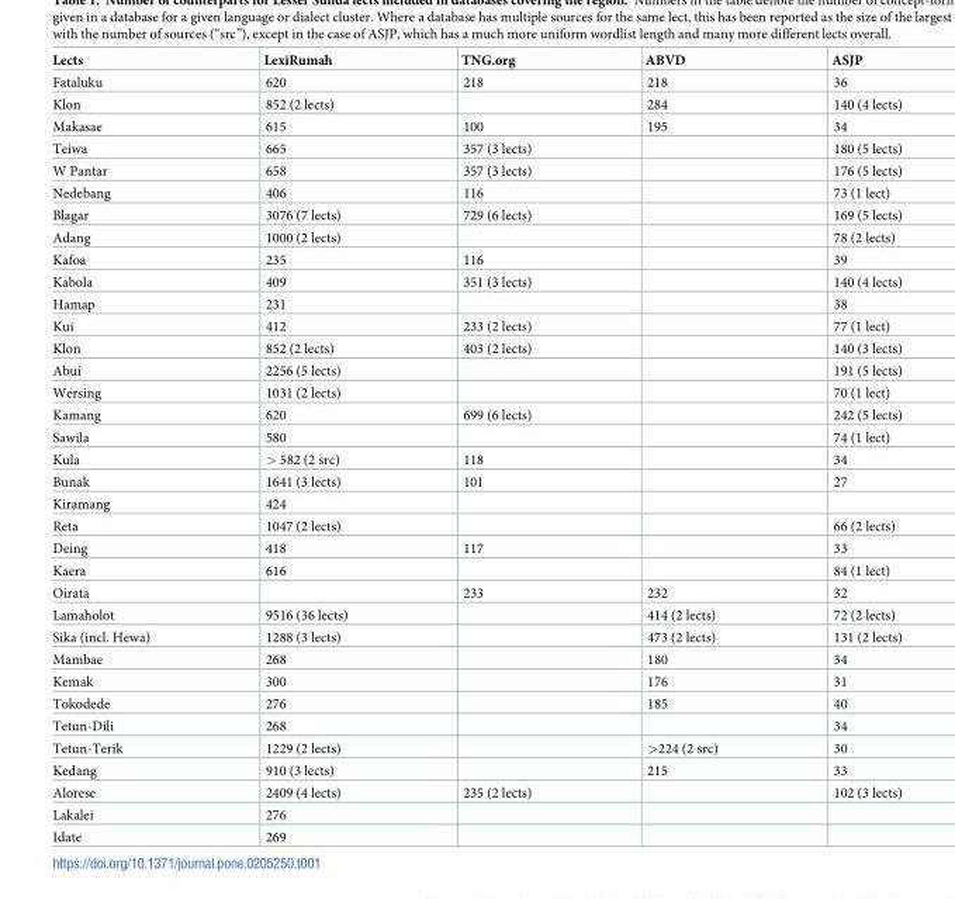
<table><thead><tr><td>Lects</td><td>LexiRumah</td><td>TNG.org</td><td>ABVD</td><td>ASJP</td></tr></thead><tbody><tr><td>Fataluku</td><td>620</td><td>218</td><td>218</td><td>36</td></tr><tr><td>Klon</td><td>852 (2 lects)</td><td></td><td>284</td><td>140 (4 lects)</td></tr><tr><td>Makasae</td><td>615</td><td>100</td><td>195</td><td>34</td></tr><tr><td>Teiwa</td><td>665</td><td>357 (3 lects)</td><td></td><td>180 (5 lects)</td></tr><tr><td>W Pantar</td><td>658</td><td>357 (3 lects)</td><td></td><td>176 (5 lects)</td></tr><tr><td>Nedebang</td><td>406</td><td>116</td><td></td><td>73 (1 lect)</td></tr><tr><td>Blagar</td><td>3076 (7 lects)</td><td>729 (6 lects)</td><td></td><td>169 (5 lects)</td></tr><tr><td>Adang</td><td>1000 (2 lects)</td><td></td><td></td><td>78 (2 lects)</td></tr><tr><td>Kafoa</td><td>235</td><td>116</td><td></td><td>39</td></tr><tr><td>Kabola</td><td>409</td><td>351 (3 lects)</td><td></td><td>140 (4 lects)</td></tr><tr><td>Hamap</td><td>231</td><td></td><td></td><td>38</td></tr><tr><td>Kui</td><td>412</td><td>233 (2 lects)</td><td></td><td>77 (1 lect)</td></tr><tr><td>Klon</td><td>852 (2 lects)</td><td>403 (2 lects)</td><td></td><td>140 (3 lects)</td></tr><tr><td>Abui</td><td>2256 (5 lects)</td><td></td><td></td><td>191 (5 lects)</td></tr><tr><td>Wersing</td><td>1031 (2 lects)</td><td></td><td></td><td>70 (1 lect)</td></tr><tr><td>Kamang</td><td>620</td><td>699 (6 lects)</td><td></td><td>242 (5 lects)</td></tr><tr><td>Sawila</td><td>580</td><td></td><td></td><td>74 (1 lect)</td></tr><tr><td>Kula</td><td>&gt; 582 (2 src)</td><td>118</td><td></td><td>34</td></tr><tr><td>Bunak</td><td>1641 (3 lects)</td><td>101</td><td></td><td>27</td></tr><tr><td>Kiramang</td><td>424</td><td></td><td></td><td></td></tr><tr><td>Reta</td><td>1047 (2 lects)</td><td></td><td></td><td>66 (2 lects)</td></tr><tr><td>Deing</td><td>418</td><td>117</td><td></td><td>33</td></tr><tr><td>Kaera</td><td>616</td><td></td><td></td><td>84 (1 lect)</td></tr><tr><td>Oirata</td><td></td><td>233</td><td>232</td><td>32</td></tr><tr><td>Lamaholot</td><td>9516 (36 lects)</td><td></td><td>414 (2 lects)</td><td>72 (2 lects)</td></tr><tr><td>Sika (incl. Hewa)</td><td>1288 (3 lects)</td><td></td><td>473 (2 lects)</td><td>131 (2 lects)</td></tr><tr><td>Mambae</td><td>268</td><td></td><td>180</td><td>34</td></tr><tr><td>Kemak</td><td>300</td><td></td><td>176</td><td>31</td></tr><tr><td>Tokodede</td><td>276</td><td></td><td>185</td><td>40</td></tr><tr><td>Tetun-Dili</td><td>268</td><td></td><td></td><td>34</td></tr><tr><td>Tetun-Terik</td><td>1229 (2 lects)</td><td></td><td>&gt;224 (2 src)</td><td>30</td></tr><tr><td>Kedang</td><td>910 (3 lects)</td><td></td><td>215</td><td>33</td></tr><tr><td>Alorese</td><td>2409 (4 lects)</td><td>235 (2 lects)</td><td></td><td>102 (3 lects)</td></tr><tr><td>Lakalei</td><td>276</td><td></td><td></td><td></td></tr><tr><td>Idate</td><td>269</td><td></td><td></td><td></td></tr></tbody></table>